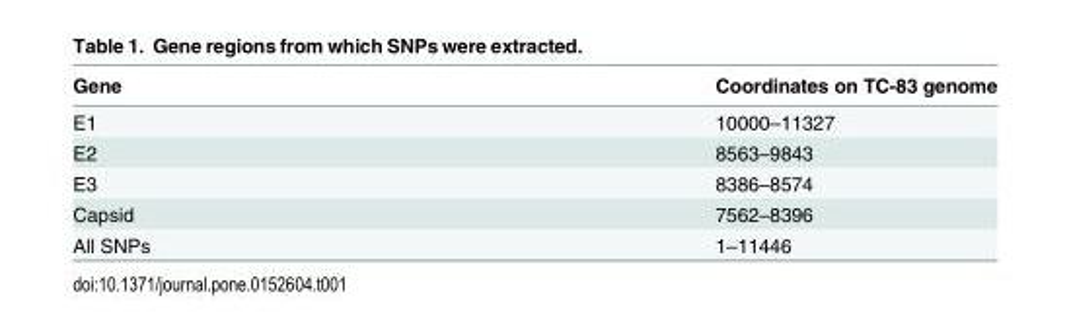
<table><thead><tr><td>Gene</td><td>Coordinates on TC-83 genome</td></tr></thead><tbody><tr><td>E1</td><td>10000–11327</td></tr><tr><td>E2</td><td>8563–9843</td></tr><tr><td>E3</td><td>8386–8574</td></tr><tr><td>Capsid</td><td>7562–8396</td></tr><tr><td>All SNPs</td><td>1–11446</td></tr></tbody></table>